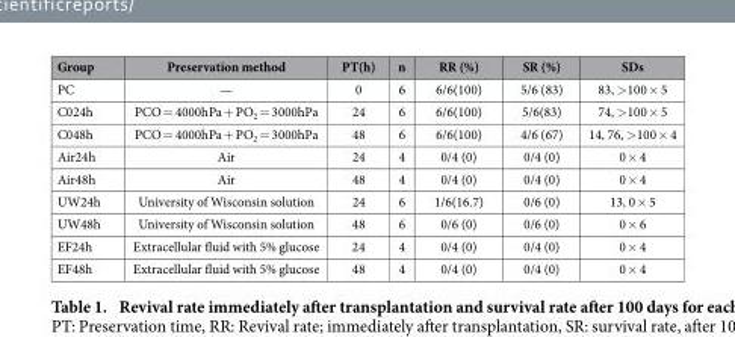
<table><thead><tr><td>Group</td><td>Preservation method</td><td>PT(h)</td><td>n</td><td>RR (%)</td><td>SR (%)</td><td>SDs</td></tr></thead><tbody><tr><td>PC</td><td>—</td><td>0</td><td>6</td><td>6/6(100)</td><td>5/6 (83)</td><td>83, &gt; 100 × 5</td></tr><tr><td>C024h</td><td>PCO = 4000hPa + PO<sub>2</sub> = 3000hPa</td><td>24</td><td>6</td><td>6/6(100)</td><td>5/6(83)</td><td>74, &gt; 100 × 5</td></tr><tr><td>C048h</td><td>PCO = 4000hPa + PO<sub>2</sub> = 3000hPa</td><td>48</td><td>6</td><td>6/6(100)</td><td>4/6 (67)</td><td>14, 76, &gt; 100 × 4</td></tr><tr><td>Air24h</td><td>Air</td><td>24</td><td>4</td><td>0/4 (0)</td><td>0/4 (0)</td><td>0 × 4</td></tr><tr><td>Air48h</td><td>Air</td><td>48</td><td>4</td><td>0/4 (0)</td><td>0/4 (0)</td><td>0 × 4</td></tr><tr><td>UW24h</td><td>University of Wisconsin solution</td><td>24</td><td>6</td><td>1/6(16.7)</td><td>0/6 (0)</td><td>13, 0 × 5</td></tr><tr><td>UW48h</td><td>University of Wisconsin solution</td><td>48</td><td>6</td><td>0/6 (0)</td><td>0/6 (0)</td><td>0 × 6</td></tr><tr><td>EF24h</td><td>Extracellular fluid with 5% glucose</td><td>24</td><td>4</td><td>0/4 (0)</td><td>0/4 (0)</td><td>0 × 4</td></tr><tr><td>EF48h</td><td>Extracellular fluid with 5% glucose</td><td>48</td><td>4</td><td>0/4 (0)</td><td>0/4 (0)</td><td>0 × 4</td></tr></tbody></table>